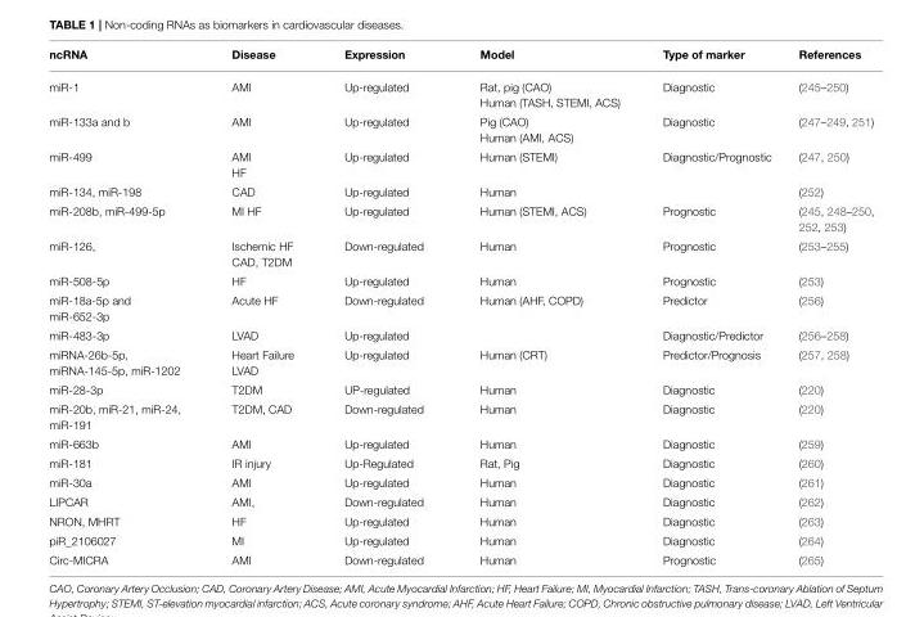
<table><thead><tr><td>ncRNA</td><td>Disease</td><td>Expression</td><td>Model</td><td>Type of marker</td><td>References</td></tr></thead><tbody><tr><td>miR-1</td><td>AMI</td><td>Up-regulated</td><td>Rat, pig (CAO) Human (TASH, STEMI, ACS)</td><td>Diagnostic</td><td>(245–250)</td></tr><tr><td>miR-133a and b</td><td>AMI</td><td>Up-regulated</td><td>Pig (CAO) Human (AMI, ACS)</td><td>Diagnostic</td><td>(247–249, 251)</td></tr><tr><td>miR-499</td><td>AMI HF</td><td>Up-regulated</td><td>Human (STEMI)</td><td>Diagnostic/Prognostic</td><td>(247, 250)</td></tr><tr><td>miR-134, miR-198</td><td>CAD</td><td>Up-regulated</td><td>Human</td><td></td><td>(252)</td></tr><tr><td>miR-208b, miR-499-5p</td><td>MI HF</td><td>Up-regulated</td><td>Human (STEMI, ACS)</td><td>Prognostic</td><td>(245, 248–250, 252, 253)</td></tr><tr><td>miR-126,</td><td>Ischemic HF CAD, T2DM</td><td>Down-regulated</td><td>Human</td><td>Prognostic</td><td>(253–255)</td></tr><tr><td>miR-508-5p</td><td>HF</td><td>Up-regulated</td><td>Human</td><td>Prognostic</td><td>(253)</td></tr><tr><td>miR-18a-5p and miR-652-3p</td><td>Acute HF</td><td>Down-regulated</td><td>Human (AHF, COPD)</td><td>Predictor</td><td>(256)</td></tr><tr><td>miR-483-3p</td><td>LVAD</td><td>Up-regulated</td><td></td><td>Diagnostic/Predictor</td><td>(256–258)</td></tr><tr><td>miRNA-26b-5p, miRNA-145-5p, miR-1202</td><td>Heart Failure LVAD</td><td>Up-regulated</td><td>Human (CRT)</td><td>Predictor/Prognosis</td><td>(257, 258)</td></tr><tr><td>miR-28-3p</td><td>T2DM</td><td>UP-regulated</td><td>Human</td><td>Diagnostic</td><td>(220)</td></tr><tr><td>miR-20b, miR-21, miR-24, miR-191</td><td>T2DM, CAD</td><td>Down-regulated</td><td>Human</td><td>Diagnostic</td><td>(220)</td></tr><tr><td>miR-663b</td><td>AMI</td><td>Up-regulated</td><td>Human</td><td>Diagnostic</td><td>(259)</td></tr><tr><td>miR-181</td><td>IR injury</td><td>Up-Regulated</td><td>Rat, Pig</td><td>Diagnostic</td><td>(260)</td></tr><tr><td>miR-30a</td><td>AMI</td><td>Up-regulated</td><td>Human</td><td>Diagnostic</td><td>(261)</td></tr><tr><td>LIPCAR</td><td>AMI,</td><td>Down-regulated</td><td>Human</td><td>Diagnostic</td><td>(262)</td></tr><tr><td>NRON, MHRT</td><td>HF</td><td>Up-regulated</td><td>Human</td><td>Diagnostic</td><td>(263)</td></tr><tr><td>piR_2106027</td><td>MI</td><td>Up-regulated</td><td>Human</td><td>Diagnostic</td><td>(264)</td></tr><tr><td>Circ-MICRA</td><td>AMI</td><td>Down-regulated</td><td>Human</td><td>Prognostic</td><td>(265)</td></tr></tbody></table>